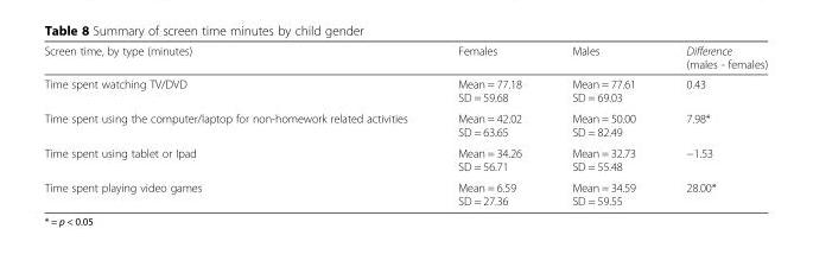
<table><thead><tr><td>Screen time, by type (minutes)</td><td>Females</td><td>Males</td><td>Difference (males - females)</td></tr></thead><tbody><tr><td>Time spent watching TV/DVD</td><td>Mean = 77.18 SD = 59.68</td><td>Mean = 77.61 SD = 69.03</td><td>0.43</td></tr><tr><td>Time spent using the computer/laptop for non-homework related activities</td><td>Mean = 42.02 SD = 63.65</td><td>Mean = 50.00 SD = 82.49</td><td>7.98*</td></tr><tr><td>Time spent using tablet or Ipad</td><td>Mean = 34.26 SD = 56.71</td><td>Mean = 32.73 SD = 55.48</td><td>−1.53</td></tr><tr><td>Time spent playing video games</td><td>Mean = 6.59 SD = 27.36</td><td>Mean = 34.59 SD = 59.55</td><td>28.00*</td></tr></tbody></table>